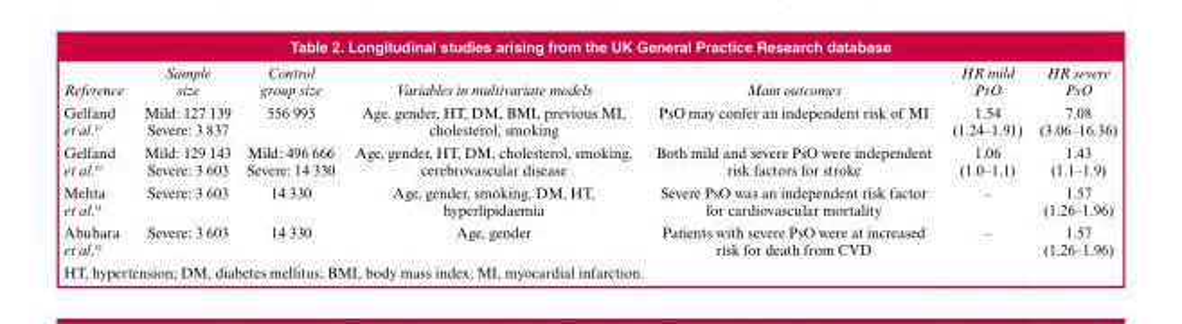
<table><thead><tr><td>Reference</td><td>Sample size</td><td>Control group size</td><td>Variables in multivariate models</td><td>Main outcomes</td><td>HR mild PsO</td><td>HR severe PsO</td></tr></thead><tbody><tr><td>Gelfand et al.<sup>10</sup></td><td>Mild: 127 139 Severe: 3 837</td><td>556 995</td><td>Age. gender, HT, DM, BMI, previous MI, cholesterol, smoking</td><td>PsO may confer an independent risk of MI</td><td>1.54 (1.24–1.91)</td><td>7.08 (3.06–16.36)</td></tr><tr><td>Gelfand et al.<sup>20</sup></td><td>Mild: 129 143 Severe: 3 603</td><td>Mild: 496 666 Severe: 14 330</td><td>Age, gender, HT, DM, cholesterol, smoking, cerebrovascular disease</td><td>Both mild and severe PsO were independent risk factors for stroke</td><td>1.06 (1.0–1.1)</td><td>1.43 (1.1–1.9)</td></tr><tr><td>Mehta et al.<sup>51</sup></td><td>Severe: 3 603</td><td>14 330</td><td>Age, gender, smoking, DM, HT, hyperlipidaemia</td><td>Severe PsO was an independent risk factor for cardiovascular mortality</td><td>–</td><td>1.57 (1.26–1.96)</td></tr><tr><td>Abubara et al.<sup>52</sup></td><td>Severe: 3 603</td><td>14 330</td><td>Age, gender</td><td>Patients with severe PsO were at increased risk for death from CVD</td><td>–</td><td>1.57 (1.26–1.96)</td></tr></tbody></table>